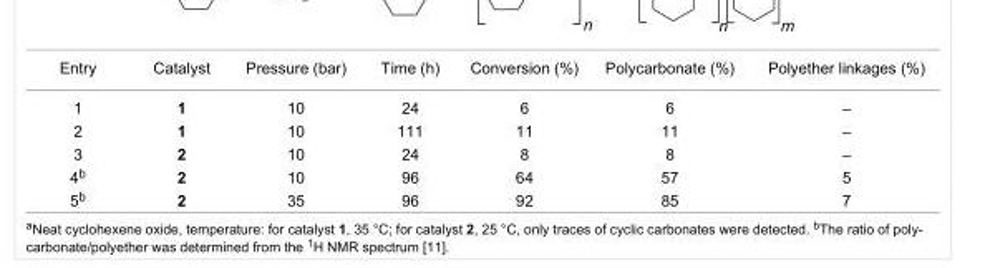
<table><tbody><tr><td>Entry</td><td>Catalyst</td><td>Pressure (bar)</td><td>Time (h)</td><td>Conversion (%)</td><td>Polycarbonate (%)</td><td>Polyether linkages (%)</td></tr><tr><td>1</td><td>1</td><td>10</td><td>24</td><td>6</td><td>6</td><td>–</td></tr><tr><td>2</td><td>1</td><td>10</td><td>111</td><td>11</td><td>11</td><td>–</td></tr><tr><td>3</td><td>2</td><td>10</td><td>24</td><td>8</td><td>8</td><td>–</td></tr><tr><td>4<sup>b</sup></td><td>2</td><td>10</td><td>96</td><td>64</td><td>57</td><td>5</td></tr><tr><td>5<sup>b</sup></td><td>2</td><td>35</td><td>96</td><td>92</td><td>85</td><td>7</td></tr></tbody></table>